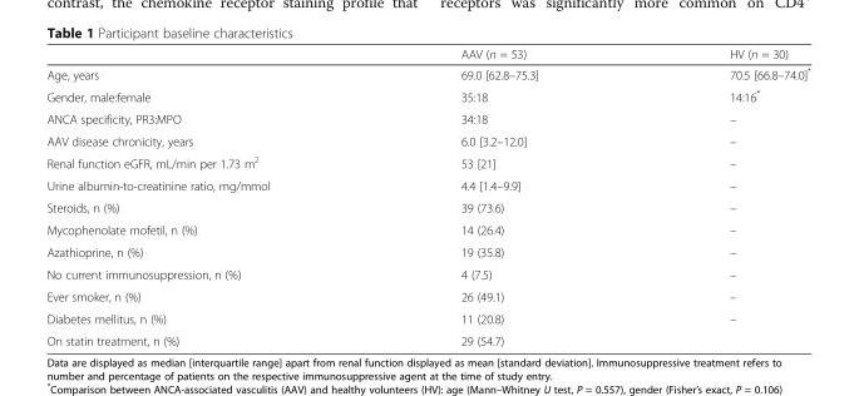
<table><thead><tr><td></td><td>AAV (n = 53)</td><td>HV (n = 30)</td></tr></thead><tbody><tr><td>Age, years</td><td>69.0 [62.8–75.3]</td><td>70.5 [66.8–74.0]*</td></tr><tr><td>Gender, male:female</td><td>35:18</td><td>14:16*</td></tr><tr><td>ANCA specificity, PR3:MPO</td><td>34:18</td><td>–</td></tr><tr><td>AAV disease chronicity, years</td><td>6.0 [3.2–12.0]</td><td>–</td></tr><tr><td>Renal function eGFR, mL/min per 1.73 m<sup>2</sup></td><td>53 [21]</td><td>–</td></tr><tr><td>Urine albumin-to-creatinine ratio, mg/mmol</td><td>4.4 [1.4–9.9]</td><td>–</td></tr><tr><td>Steroids, n (%)</td><td>39 (73.6)</td><td>–</td></tr><tr><td>Mycophenolate mofetil, n (%)</td><td>14 (26.4)</td><td>–</td></tr><tr><td>Azathioprine, n (%)</td><td>19 (35.8)</td><td>–</td></tr><tr><td>No current immunosuppression, n (%)</td><td>4 (7.5)</td><td>–</td></tr><tr><td>Ever smoker, n (%)</td><td>26 (49.1)</td><td>–</td></tr><tr><td>Diabetes mellitus, n (%)</td><td>11 (20.8)</td><td>–</td></tr><tr><td>On statin treatment, n (%)</td><td>29 (54.7)</td><td></td></tr></tbody></table>